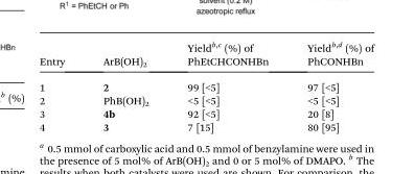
<table><thead><tr><td>Entry</td><td>ArB(OH)<sub>2</sub></td><td>Yield<sup>b,c</sup> (%) of PhEtCHCONHBn</td><td>Yield<sup>b,d</sup> (%) of PhCONHBn</td></tr></thead><tbody><tr><td>1</td><td>2</td><td>99 [&lt;5]</td><td>97 [&lt;5]</td></tr><tr><td>2</td><td>PhB(OH)<sub>2</sub></td><td>&lt;5 [&lt;5]</td><td>&lt;5 [&lt;5]</td></tr><tr><td>3</td><td>4b</td><td>92 [&lt;5]</td><td>20 [8]</td></tr><tr><td>4</td><td>3</td><td>7 [15]</td><td>80 [95]</td></tr></tbody></table>